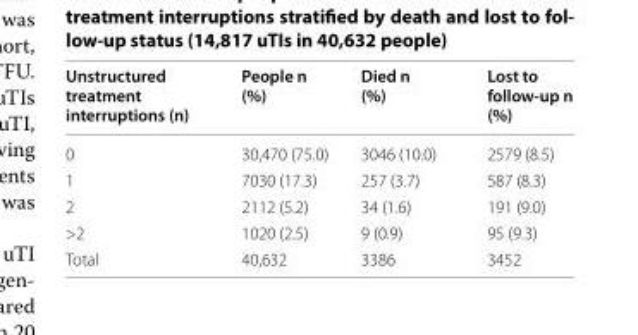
<table><thead><tr><td>Unstructured treatment interruptions (n)</td><td>People n (%)</td><td>Died n (%)</td><td>Lost to follow-up n (%)</td></tr></thead><tbody><tr><td>0</td><td>30,470 (75.0)</td><td>3046 (10.0)</td><td>2579 (8.5)</td></tr><tr><td>1</td><td>7030 (17.3)</td><td>257 (3.7)</td><td>587 (8.3)</td></tr><tr><td>2</td><td>2112 (5.2)</td><td>34 (1.6)</td><td>191 (9.0)</td></tr><tr><td>&gt;2</td><td>1020 (2.5)</td><td>9 (0.9)</td><td>95 (9.3)</td></tr><tr><td>Total</td><td>40,632</td><td>3386</td><td>3452</td></tr></tbody></table>